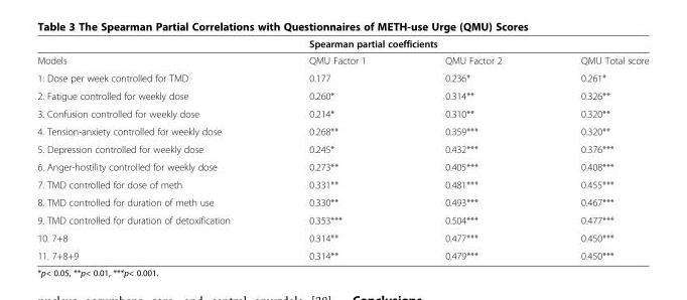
<table><thead><tr><td rowspan="2">Models</td><td colspan="3">Spearman partial coefficients</td></tr><tr><td>QMU Factor 1</td><td>QMU Factor 2</td><td>QMU Total score</td></tr></thead><tbody><tr><td>1: Dose per week controlled for TMD</td><td>0.177</td><td>0.236*</td><td>0.261*</td></tr><tr><td>2. Fatigue controlled for weekly dose</td><td>0.260*</td><td>0.314**</td><td>0.326**</td></tr><tr><td>3. Confusion controlled for weekly dose</td><td>0.214*</td><td>0.310**</td><td>0.320**</td></tr><tr><td>4. Tension-anxiety controlled for weekly dose</td><td>0.268**</td><td>0.359***</td><td>0.320**</td></tr><tr><td>5. Depression controlled for weekly dose</td><td>0.245*</td><td>0.432***</td><td>0.376***</td></tr><tr><td>6. Anger-hostility controlled for weekly dose</td><td>0.273**</td><td>0.405***</td><td>0.408***</td></tr><tr><td>7. TMD controlled for dose of meth</td><td>0.331**</td><td>0.481***</td><td>0.455***</td></tr><tr><td>8. TMD controlled for duration of meth use</td><td>0.330**</td><td>0.493***</td><td>0.467***</td></tr><tr><td>9. TMD controlled for duration of detoxification</td><td>0.353***</td><td>0.504***</td><td>0.477***</td></tr><tr><td>10. 7+8</td><td>0.314**</td><td>0.477***</td><td>0.450***</td></tr><tr><td>11. 7+8+9</td><td>0.314**</td><td>0.479***</td><td>0.450***</td></tr></tbody></table>